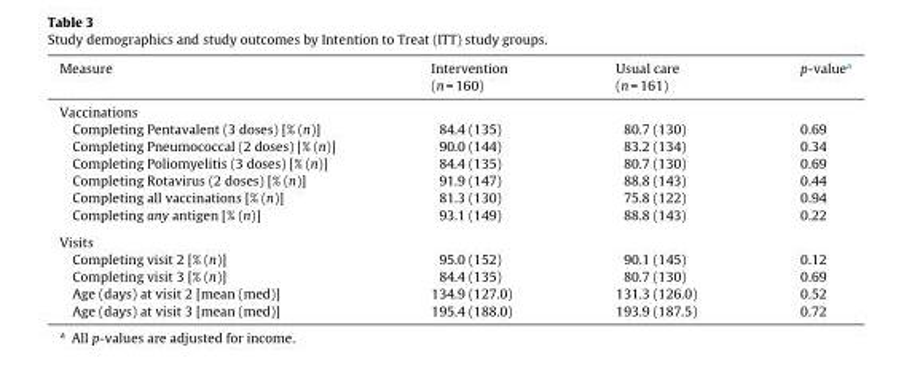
<table><thead><tr><td>Measure</td><td>Intervention (n = 160)</td><td>Usual care (n = 161)</td><td>p-value<sup>a</sup></td></tr></thead><tbody><tr><td colspan="4">Vaccinations</td></tr><tr><td>Completing Pentavalent (3 doses) [% (n)]</td><td>84.4 (135)</td><td>80.7 (130)</td><td>0.69</td></tr><tr><td>Completing Pneumococcal (2 doses) [% (n)]</td><td>90.0 (144)</td><td>83.2 (134)</td><td>0.34</td></tr><tr><td>Completing Poliomyelitis (3 doses) [% (n)]</td><td>84.4 (135)</td><td>80.7 (130)</td><td>0.69</td></tr><tr><td>Completing Rotavirus (2 doses) [% (n)]</td><td>91.9 (147)</td><td>88.8 (143)</td><td>0.44</td></tr><tr><td>Completing all vaccinations [% (n)]</td><td>81.3 (130)</td><td>75.8 (122)</td><td>0.94</td></tr><tr><td>Completing any antigen [% (n)]</td><td>93.1 (149)</td><td>88.8 (143)</td><td>0.22</td></tr><tr><td colspan="4">Visits</td></tr><tr><td>Completing visit 2 [% (n)]</td><td>95.0 (152)</td><td>90.1 (145)</td><td>0.12</td></tr><tr><td>Completing visit 3 [% (n)]</td><td>84.4 (135)</td><td>80.7 (130)</td><td>0.69</td></tr><tr><td>Age (days) at visit 2 [mean (med)]</td><td>134.9 (127.0)</td><td>131.3 (126.0)</td><td>0.52</td></tr><tr><td>Age (days) at visit 3 [mean (med)]</td><td>195.4 (188.0)</td><td>193.9 (187.5)</td><td>0.72</td></tr></tbody></table>